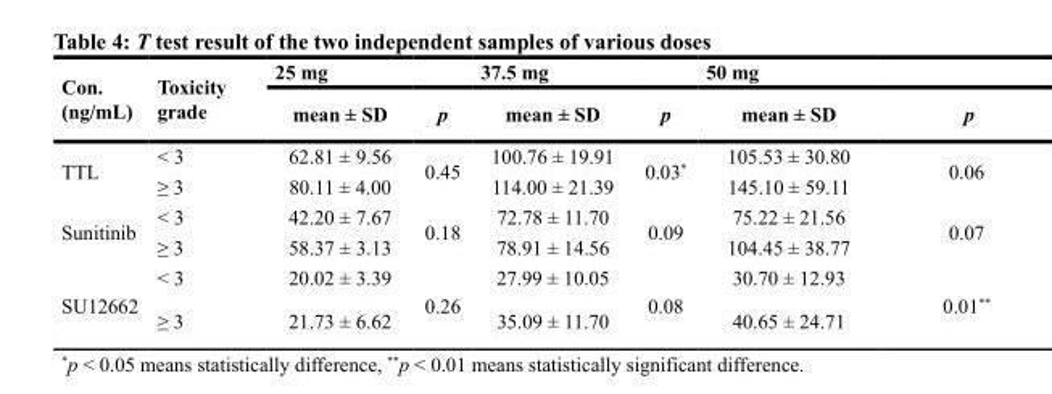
<table><thead><tr><td rowspan="2">Con. (ng/mL)</td><td rowspan="2">Toxicity grade</td><td rowspan="2">25 mg mean ± SD</td><td rowspan="2">p</td><td rowspan="2">37.5 mg mean ± SD</td><td rowspan="2">p</td><td rowspan="2">50 mg mean ± SD</td><td rowspan="2">p</td></tr><tr></tr></thead><tbody><tr><td rowspan="2">TTL</td><td>&lt; 3</td><td>62.81 ± 9.56</td><td rowspan="2">0.45</td><td>100.76 ± 19.91</td><td rowspan="2">0.03*</td><td>105.53 ± 30.80</td><td rowspan="2">0.06</td></tr><tr><td>≥ 3</td><td>80.11 ± 4.00</td><td>114.00 ± 21.39</td><td>145.10 ± 59.11</td></tr><tr><td rowspan="2">Sunitinib</td><td>&lt; 3</td><td>42.20 ± 7.67</td><td rowspan="2">0.18</td><td>72.78 ± 11.70</td><td rowspan="2">0.09</td><td>75.22 ± 21.56</td><td rowspan="2">0.07</td></tr><tr><td>≥ 3</td><td>58.37 ± 3.13</td><td>78.91 ± 14.56</td><td>104.45 ± 38.77</td></tr><tr><td rowspan="2">SU12662</td><td>&lt; 3</td><td>20.02 ± 3.39</td><td rowspan="2">0.26</td><td>27.99 ± 10.05</td><td rowspan="2">0.08</td><td>30.70 ± 12.93</td><td rowspan="2">0.01**</td></tr><tr><td>≥ 3</td><td>21.73 ± 6.62</td><td>35.09 ± 11.70</td><td>40.65 ± 24.71</td></tr></tbody></table>